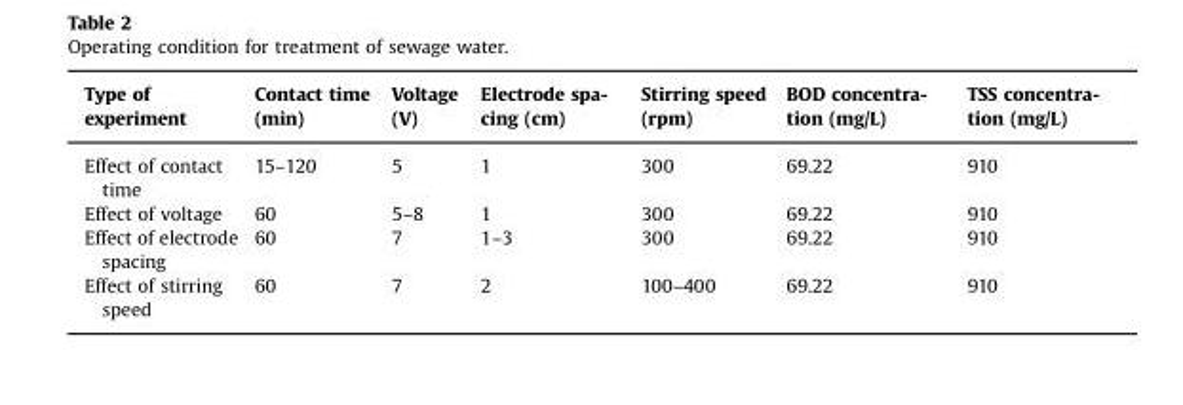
<table><thead><tr><td>Type of experiment</td><td>Contact time (min)</td><td>Voltage (V)</td><td>Electrode spa- cing (cm)</td><td>Stirring speed (rpm)</td><td>BOD concentra- tion (mg/L)</td><td>TSS concentra- tion (mg/L)</td></tr></thead><tbody><tr><td>Effect of contact time</td><td>15–120</td><td>5</td><td>1</td><td>300</td><td>69.22</td><td>910</td></tr><tr><td>Effect of voltage</td><td>60</td><td>5–8</td><td>1</td><td>300</td><td>69.22</td><td>910</td></tr><tr><td>Effect of electrode spacing</td><td>60</td><td>7</td><td>1–3</td><td>300</td><td>69.22</td><td>910</td></tr><tr><td>Effect of stirring speed</td><td>60</td><td>7</td><td>2</td><td>100–400</td><td>69.22</td><td>910</td></tr></tbody></table>